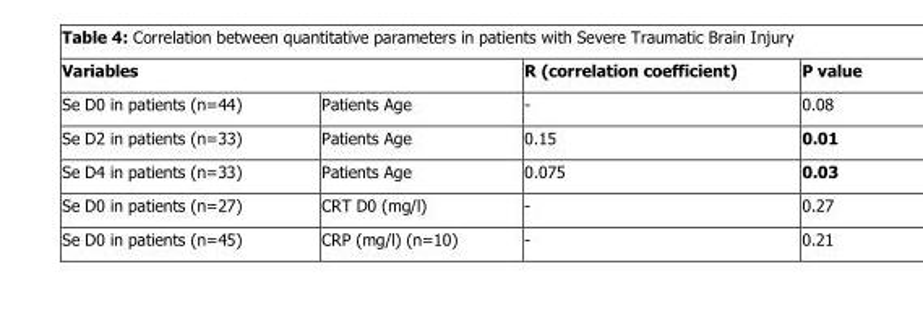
<table><thead><tr><td colspan="2">Variables</td><td rowspan="2">R (correlation coefficient) -</td><td rowspan="2">P value 0.08</td></tr><tr><td>Se D0 in patients (n=44)</td><td>Patients Age</td></tr></thead><tbody><tr><td>Se D2 in patients (n=33)</td><td>Patients Age</td><td>0.15</td><td>0.01</td></tr><tr><td>Se D4 in patients (n=33)</td><td>Patients Age</td><td>0.075</td><td>0.03</td></tr><tr><td>Se D0 in patients (n=27)</td><td>CRT D0 (mg/l)</td><td>-</td><td>0.27</td></tr><tr><td>Se D0 in patients (n=45)</td><td>CRP (mg/l) (n=10)</td><td>-</td><td>0.21</td></tr></tbody></table>